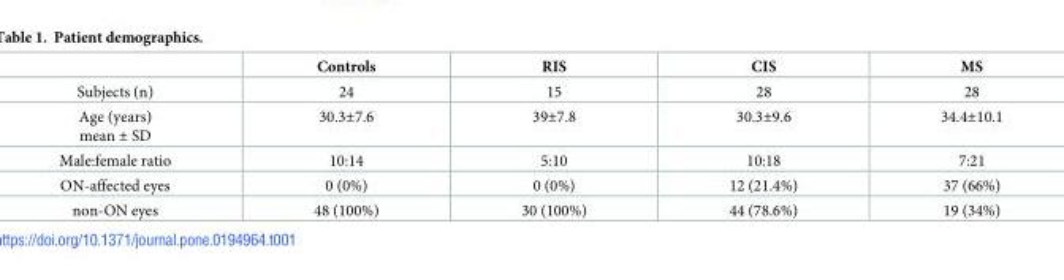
<table><thead><tr><td></td><td>Controls</td><td>RIS</td><td>CIS</td><td>MS</td></tr></thead><tbody><tr><td>Subjects (n)</td><td>24</td><td>15</td><td>28</td><td>28</td></tr><tr><td>Age (years) mean ± SD</td><td>30.3±7.6</td><td>39±7.8</td><td>30.3±9.6</td><td>34.4±10.1</td></tr><tr><td>Male:female ratio</td><td>10:14</td><td>5:10</td><td>10:18</td><td>7:21</td></tr><tr><td>ON-affected eyes</td><td>0 (0%)</td><td>0 (0%)</td><td>12 (21.4%)</td><td>37 (66%)</td></tr><tr><td>non-ON eyes</td><td>48 (100%)</td><td>30 (100%)</td><td>44 (78.6%)</td><td>19 (34%)</td></tr></tbody></table>